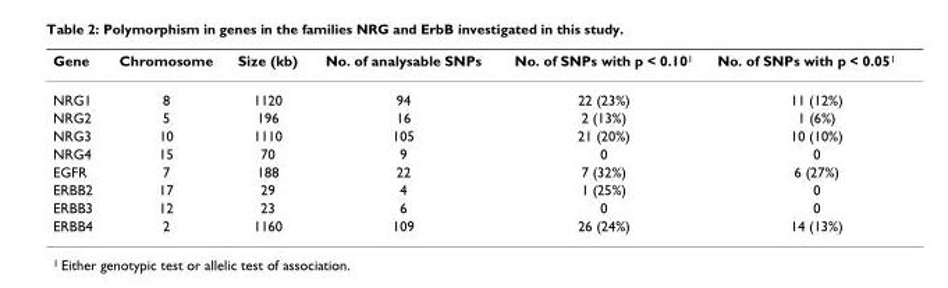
<table><thead><tr><td>Gene</td><td>Chromosome</td><td>Size (kb)</td><td>No. of analysable SNPs</td><td>No. of SNPs with p &lt; 0.10<sup>1</sup></td><td>No. of SNPs with p &lt; 0.05<sup>1</sup></td></tr></thead><tbody><tr><td>NRG1</td><td>8</td><td>1120</td><td>94</td><td>22 (23%)</td><td>11 (12%)</td></tr><tr><td>NRG2</td><td>5</td><td>196</td><td>16</td><td>2 (13%)</td><td>1 (6%)</td></tr><tr><td>NRG3</td><td>10</td><td>1110</td><td>105</td><td>21 (20%)</td><td>10 (10%)</td></tr><tr><td>NRG4</td><td>15</td><td>70</td><td>9</td><td>0</td><td>0</td></tr><tr><td>EGFR</td><td>7</td><td>188</td><td>22</td><td>7 (32%)</td><td>6 (27%)</td></tr><tr><td>ERBB2</td><td>17</td><td>29</td><td>4</td><td>1 (25%)</td><td>0</td></tr><tr><td>ERBB3</td><td>12</td><td>23</td><td>6</td><td>0</td><td>0</td></tr><tr><td>ERBB4</td><td>2</td><td>1160</td><td>109</td><td>26 (24%)</td><td>14 (13%)</td></tr></tbody></table>